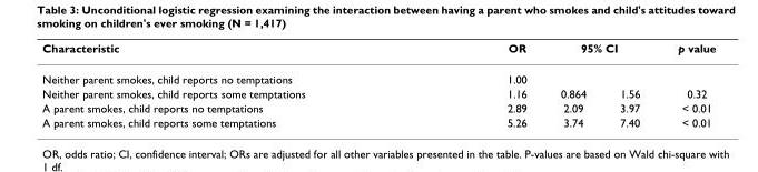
<table><thead><tr><td rowspan="2">Characteristic Neither parent smokes, child reports no temptations</td><td rowspan="2">OR 1.00</td><td colspan="2">95% CI</td><td rowspan="2">p value</td></tr><tr><td></td><td></td></tr></thead><tbody><tr><td>Neither parent smokes, child reports some temptations</td><td>1.16</td><td>0.864</td><td>1.56</td><td>0.32</td></tr><tr><td>A parent smokes, child reports no temptations</td><td>2.89</td><td>2.09</td><td>3.97</td><td>&lt; 0.01</td></tr><tr><td>A parent smokes, child reports some temptations</td><td>5.26</td><td>3.74</td><td>7.40</td><td>&lt; 0.01</td></tr></tbody></table>